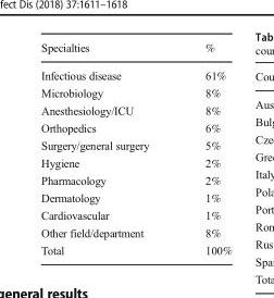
<table><thead><tr><td>Specialties</td><td>%</td></tr></thead><tbody><tr><td>Infectious disease</td><td>61%</td></tr><tr><td>Microbiology</td><td>8%</td></tr><tr><td>Anesthesiology/ICU</td><td>8%</td></tr><tr><td>Orthopedics</td><td>6%</td></tr><tr><td>Surgery/general surgery</td><td>5%</td></tr><tr><td>Hygiene</td><td>2%</td></tr><tr><td>Pharmacology</td><td>2%</td></tr><tr><td>Dermatology</td><td>1%</td></tr><tr><td>Cardiovascular</td><td>1%</td></tr><tr><td>Other field/department</td><td>8%</td></tr><tr><td>Total</td><td>100%</td></tr></tbody></table>